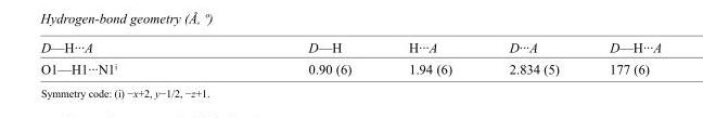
<table><tbody><tr><td>D—H···A</td><td>D—H</td><td>H···A</td><td>D···A</td><td>D—H···A</td></tr><tr><td>O1—H1···N1<sup>i</sup></td><td>0.90 (6)</td><td>1.94 (6)</td><td>2.834 (5)</td><td>177 (6)</td></tr></tbody></table>